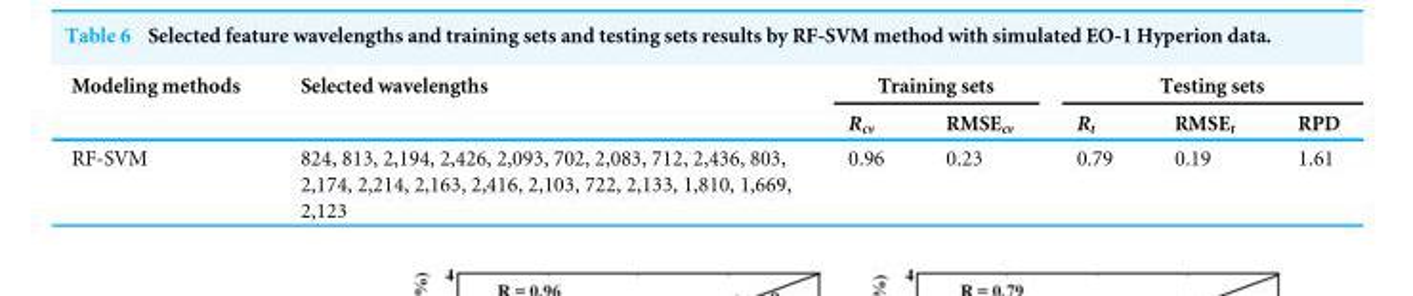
<table><thead><tr><td rowspan="2">Modeling methods</td><td rowspan="2">Selected wavelengths</td><td colspan="2">Training sets</td><td colspan="3">Testing sets</td></tr><tr><td>R<sub>cv</sub></td><td>RMSE<sub>cv</sub></td><td>R<sub>t</sub></td><td>RMSE<sub>t</sub></td><td>RPD</td></tr></thead><tbody><tr><td>RF-SVM</td><td>824, 813, 2,194, 2,426, 2,093, 702, 2,083, 712, 2,436, 803, 2,174, 2,214, 2,163, 2,416, 2,103, 722, 2,133, 1,810, 1,669, 2,123</td><td>0.96</td><td>0.23</td><td>0.79</td><td>0.19</td><td>1.61</td></tr></tbody></table>